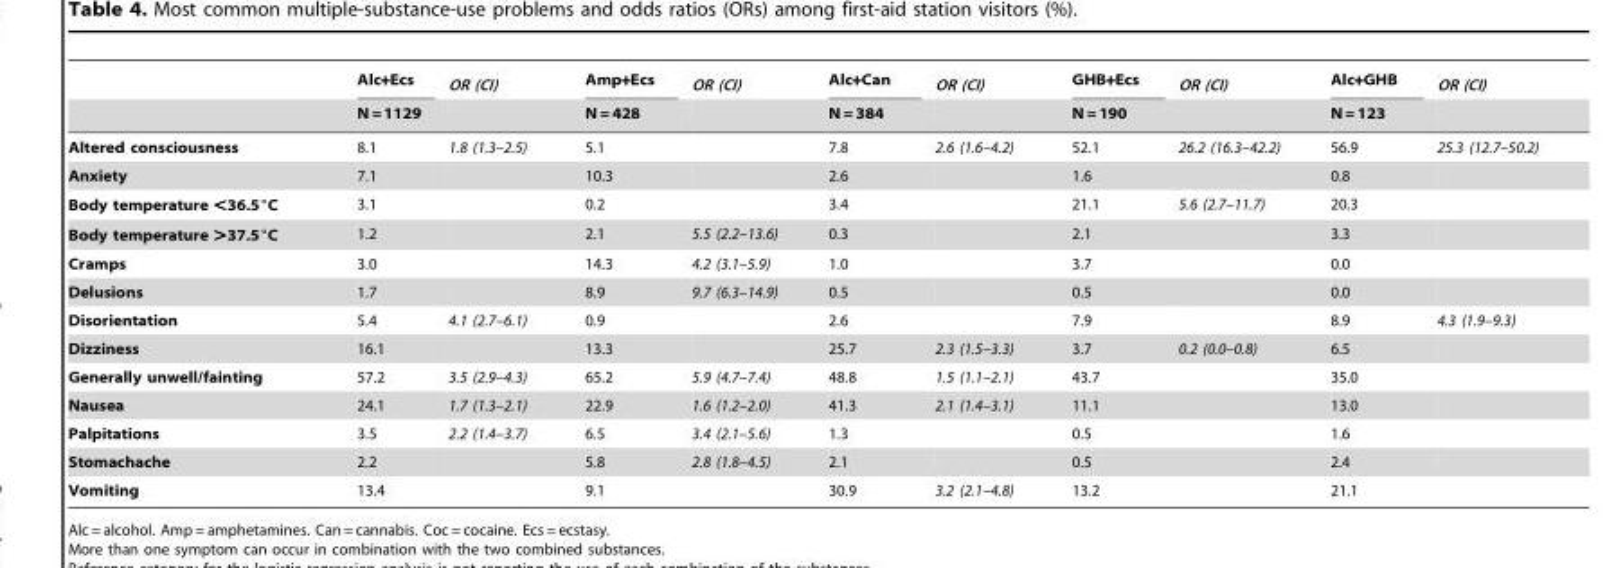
<table><thead><tr><td rowspan="2"></td><td rowspan="2">Alc+Ecs N = 1129</td><td rowspan="2">OR (CI)</td><td rowspan="2">Amp+Ecs N = 428</td><td rowspan="2">OR (CI)</td><td rowspan="2">Alc+Can N = 384</td><td rowspan="2">OR (CI)</td><td rowspan="2">GHB+Ecs N = 190</td><td rowspan="2">OR (CI)</td><td rowspan="2">Alc+GHB N = 123</td><td rowspan="2">OR (CI)</td></tr><tr></tr></thead><tbody><tr><td>Altered consciousness</td><td>8.1</td><td>1.8 (1.3–2.5)</td><td>5.1</td><td></td><td>7.8</td><td>2.6 (1.6–4.2)</td><td>52.1</td><td>26.2 (16.3–42.2)</td><td>56.9</td><td>25.3 (12.7–50.2)</td></tr><tr><td>Anxiety</td><td>7.1</td><td></td><td>10.3</td><td></td><td>2.6</td><td></td><td>1.6</td><td></td><td>0.8</td><td></td></tr><tr><td>Body temperature &lt;36.5°C</td><td>3.1</td><td></td><td>0.2</td><td></td><td>3.4</td><td></td><td>21.1</td><td>5.6 (2.7–11.7)</td><td>20.3</td><td></td></tr><tr><td>Body temperature &gt;37.5°C</td><td>1.2</td><td></td><td>2.1</td><td>5.5 (2.2–13.6)</td><td>0.3</td><td></td><td>2.1</td><td></td><td>3.3</td><td></td></tr><tr><td>Cramps</td><td>3.0</td><td></td><td>14.3</td><td>4.2 (3.1–5.9)</td><td>1.0</td><td></td><td>3.7</td><td></td><td>0.0</td><td></td></tr><tr><td>Delusions</td><td>1.7</td><td></td><td>8.9</td><td>9.7 (6.3–14.9)</td><td>0.5</td><td></td><td>0.5</td><td></td><td>0.0</td><td></td></tr><tr><td>Disorientation</td><td>5.4</td><td>4.1 (2.7–6.1)</td><td>0.9</td><td></td><td>2.6</td><td></td><td>7.9</td><td></td><td>8.9</td><td>4.3 (1.9–9.3)</td></tr><tr><td>Dizziness</td><td>16.1</td><td></td><td>13.3</td><td></td><td>25.7</td><td>2.3 (1.5–3.3)</td><td>3.7</td><td>0.2 (0.0–0.8)</td><td>6.5</td><td></td></tr><tr><td>Generally unwell/fainting</td><td>57.2</td><td>3.5 (2.9–4.3)</td><td>65.2</td><td>5.9 (4.7–7.4)</td><td>48.8</td><td>1.5 (1.1–2.1)</td><td>43.7</td><td></td><td>35.0</td><td></td></tr><tr><td>Nausea</td><td>24.1</td><td>1.7 (1.3–2.1)</td><td>22.9</td><td>1.6 (1.2–2.0)</td><td>41.3</td><td>2.1 (1.4–3.1)</td><td>11.1</td><td></td><td>13.0</td><td></td></tr><tr><td>Palpitations</td><td>3.5</td><td>2.2 (1.4–3.7)</td><td>6.5</td><td>3.4 (2.1–5.6)</td><td>1.3</td><td></td><td>0.5</td><td></td><td>1.6</td><td></td></tr><tr><td>Stomachache</td><td>2.2</td><td></td><td>5.8</td><td>2.8 (1.8–4.5)</td><td>2.1</td><td></td><td>0.5</td><td></td><td>2.4</td><td></td></tr><tr><td>Vomiting</td><td>13.4</td><td></td><td>9.1</td><td></td><td>30.9</td><td>3.2 (2.1–4.8)</td><td>13.2</td><td></td><td>21.1</td><td></td></tr></tbody></table>